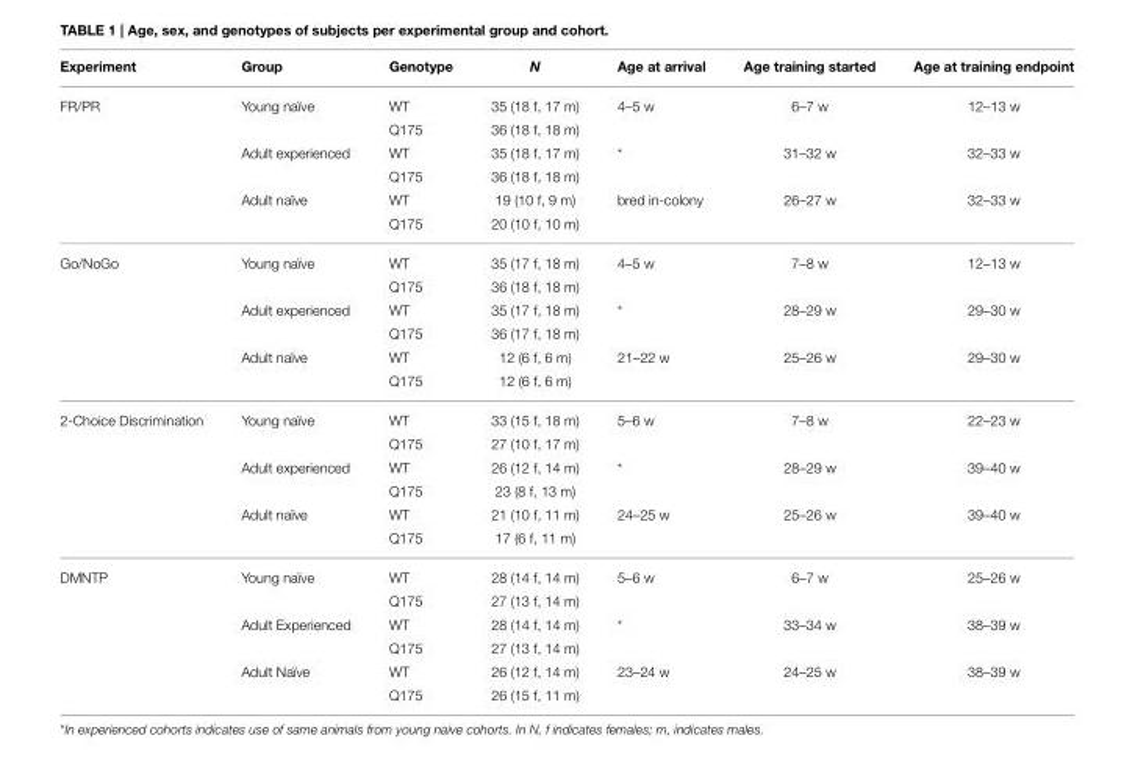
<table><thead><tr><td>Experiment</td><td>Group</td><td>Genotype</td><td>N</td><td>Age at arrival</td><td>Age training started</td><td>Age at training endpoint</td></tr></thead><tbody><tr><td rowspan="6">FR/PR</td><td>Young naïve</td><td>WT</td><td>35 (18 f, 17 m)</td><td>4–5 w</td><td>6–7 w</td><td>12–13 w</td></tr><tr><td></td><td>Q175</td><td>36 (18 f, 18 m)</td><td></td><td></td><td></td></tr><tr><td>Adult experienced</td><td>WT</td><td>35 (18 f, 17 m)</td><td>*</td><td>31–32 w</td><td>32–33 w</td></tr><tr><td></td><td>Q175</td><td>36 (18 f, 18 m)</td><td></td><td></td><td></td></tr><tr><td>Adult naïve</td><td>WT</td><td>19 (10 f, 9 m)</td><td>bred in-colony</td><td>26–27 w</td><td>32–33 w</td></tr><tr><td></td><td>Q175</td><td>20 (10 f, 10 m)</td><td></td><td></td><td></td></tr><tr><td rowspan="6">Go/NoGo</td><td>Young naïve</td><td>WT</td><td>35 (17 f, 18 m)</td><td>4–5 w</td><td>7–8 w</td><td>12–13 w</td></tr><tr><td></td><td>Q175</td><td>36 (18 f, 18 m)</td><td></td><td></td><td></td></tr><tr><td>Adult experienced</td><td>WT</td><td>35 (17 f, 18 m)</td><td>*</td><td>28–29 w</td><td>29–30 w</td></tr><tr><td></td><td>Q175</td><td>36 (17 f, 18 m)</td><td></td><td></td><td></td></tr><tr><td>Adult naïve</td><td>WT</td><td>12 (6 f, 6 m)</td><td>21–22 w</td><td>25–26 w</td><td>29–30 w</td></tr><tr><td></td><td>Q175</td><td>12 (6 f, 6 m)</td><td></td><td></td><td></td></tr><tr><td rowspan="6">2-Choice Discrimination</td><td>Young naïve</td><td>WT</td><td>33 (15 f, 18 m)</td><td>5–6 w</td><td>7–8 w</td><td>22–23 w</td></tr><tr><td></td><td>Q175</td><td>27 (10 f, 17 m)</td><td></td><td></td><td></td></tr><tr><td>Adult experienced</td><td>WT</td><td>26 (12 f, 14 m)</td><td>*</td><td>28–29 w</td><td>39–40 w</td></tr><tr><td></td><td>Q175</td><td>23 (8 f, 13 m)</td><td></td><td></td><td></td></tr><tr><td>Adult naïve</td><td>WT</td><td>21 (10 f, 11 m)</td><td>24–25 w</td><td>25–26 w</td><td>39–40 w</td></tr><tr><td></td><td>Q175</td><td>17 (6 f, 11 m)</td><td></td><td></td><td></td></tr><tr><td rowspan="6">DMNTP</td><td>Young naïve</td><td>WT</td><td>28 (14 f, 14 m)</td><td>5–6 w</td><td>6–7 w</td><td>25–26 w</td></tr><tr><td></td><td>Q175</td><td>27 (13 f, 14 m)</td><td></td><td></td><td></td></tr><tr><td>Adult Experienced</td><td>WT</td><td>28 (14 f, 14 m)</td><td>*</td><td>33–34 w</td><td>38–39 w</td></tr><tr><td></td><td>Q175</td><td>27 (13 f, 14 m)</td><td></td><td></td><td></td></tr><tr><td>Adult Naïve</td><td>WT</td><td>26 (12 f, 14 m)</td><td>23–24 w</td><td>24–25 w</td><td>38–39 w</td></tr><tr><td></td><td>Q175</td><td>26 (15 f, 11 m)</td><td></td><td></td><td></td></tr></tbody></table>